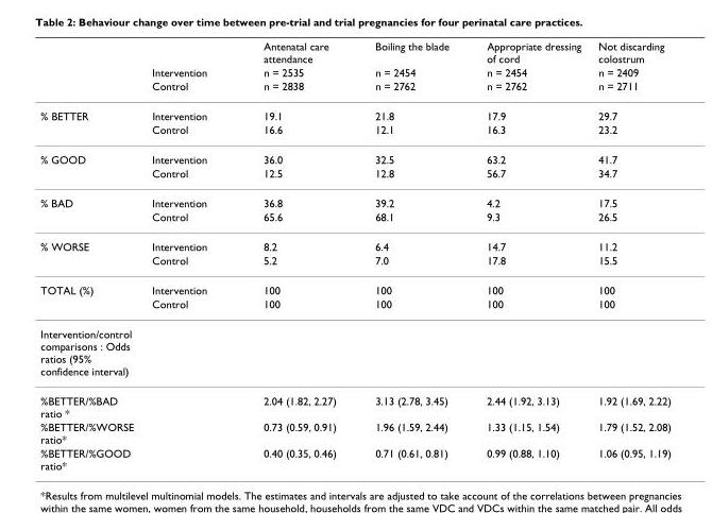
<table><thead><tr><td rowspan="3"></td><td rowspan="3">Intervention Control</td><td rowspan="3">Antenatal care attendance n = 2535 n = 2838</td><td rowspan="3">Boiling the blade n = 2454 n = 2762</td><td rowspan="3">Appropriate dressing of cord n = 2454 n = 2762</td><td rowspan="3">Not discarding colostrum n = 2409 n = 2711</td></tr><tr></tr><tr></tr></thead><tbody><tr><td rowspan="2">% BETTER</td><td>Intervention</td><td>19.1</td><td>21.8</td><td>17.9</td><td>29.7</td></tr><tr><td>Control</td><td>16.6</td><td>12.1</td><td>16.3</td><td>23.2</td></tr><tr><td rowspan="2">% GOOD</td><td>Intervention</td><td>36.0</td><td>32.5</td><td>63.2</td><td>41.7</td></tr><tr><td>Control</td><td>12.5</td><td>12.8</td><td>56.7</td><td>34.7</td></tr><tr><td rowspan="2">% BAD</td><td>Intervention</td><td>36.8</td><td>39.2</td><td>4.2</td><td>17.5</td></tr><tr><td>Control</td><td>65.6</td><td>68.1</td><td>9.3</td><td>26.5</td></tr><tr><td rowspan="2">% WORSE</td><td>Intervention</td><td>8.2</td><td>6.4</td><td>14.7</td><td>11.2</td></tr><tr><td>Control</td><td>5.2</td><td>7.0</td><td>17.8</td><td>15.5</td></tr><tr><td rowspan="2">TOTAL (%)</td><td>Intervention</td><td>100</td><td>100</td><td>100</td><td>100</td></tr><tr><td>Control</td><td>100</td><td>100</td><td>100</td><td>100</td></tr><tr><td colspan="6">Intervention/control comparisons : Odds ratios (95% confidence interval)</td></tr><tr><td>%BETTER/%BAD ratio *</td><td></td><td>2.04 (1.82, 2.27)</td><td>3.13 (2.78, 3.45)</td><td>2.44 (1.92, 3.13)</td><td>1.92 (1.69, 2.22)</td></tr><tr><td>%BETTER/%WORSE ratio*</td><td></td><td>0.73 (0.59, 0.91)</td><td>1.96 (1.59, 2.44)</td><td>1.33 (1.15, 1.54)</td><td>1.79 (1.52, 2.08)</td></tr><tr><td>%BETTER/%GOOD ratio*</td><td></td><td>0.40 (0.35, 0.46)</td><td>0.71 (0.61, 0.81)</td><td>0.99 (0.88, 1.10)</td><td>1.06 (0.95, 1.19)</td></tr></tbody></table>